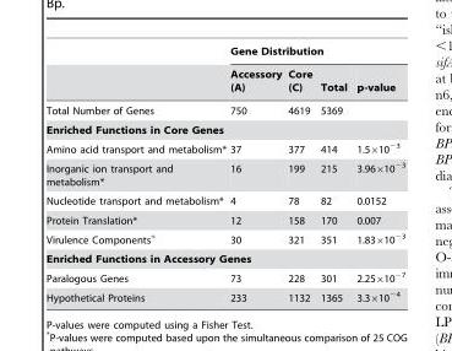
<table><thead><tr><td rowspan="2"></td><td colspan="4">Gene Distribution</td></tr><tr><td>Accessory (A)</td><td>Core (C)</td><td>Total</td><td>p-value</td></tr></thead><tbody><tr><td>Total Number of Genes</td><td>750</td><td>4619</td><td>5369</td><td></td></tr><tr><td colspan="5">Enriched Functions in Core Genes</td></tr><tr><td>Amino acid transport and metabolism*</td><td>37</td><td>377</td><td>414</td><td>1.5×10<sup>−3</sup></td></tr><tr><td>Inorganic ion transport and metabolism*</td><td>16</td><td>199</td><td>215</td><td>3.96×10<sup>−3</sup></td></tr><tr><td>Nucleotide transport and metabolism*</td><td>4</td><td>78</td><td>82</td><td>0.0152</td></tr><tr><td>Protein Translation*</td><td>12</td><td>158</td><td>170</td><td>0.007</td></tr><tr><td>Virulence Components+</td><td>30</td><td>321</td><td>351</td><td>1.83×10<sup>−3</sup></td></tr><tr><td colspan="5">Enriched Functions in Accessory Genes</td></tr><tr><td>Paralogous Genes</td><td>73</td><td>228</td><td>301</td><td>2.25×10<sup>−7</sup></td></tr><tr><td>Hypothetical Proteins</td><td>233</td><td>1132</td><td>1365</td><td>3.3×10<sup>−4</sup></td></tr></tbody></table>